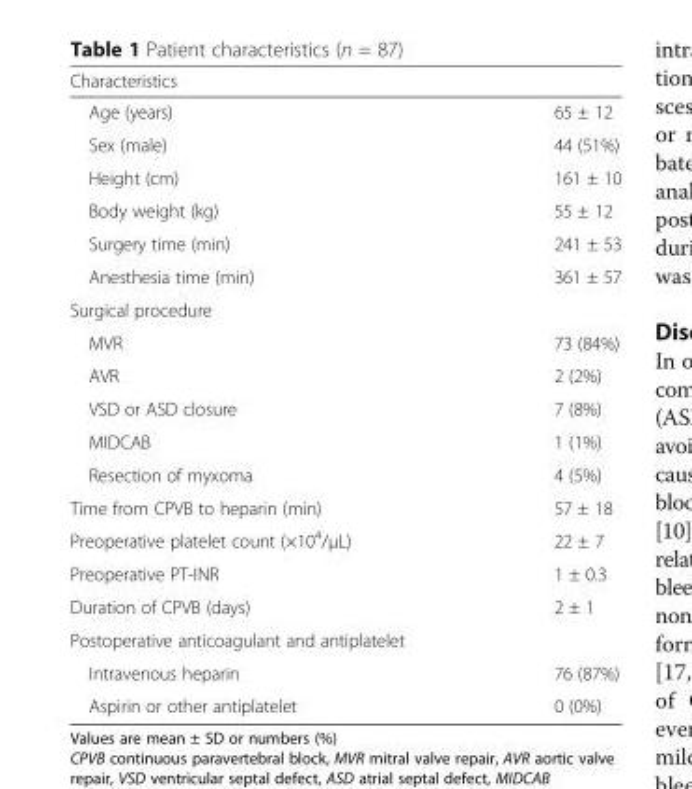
<table><thead><tr><td colspan="2">Characteristics</td></tr><tr><td>Age (years)</td><td>65 ± 12</td></tr></thead><tbody><tr><td>Sex (male)</td><td>44 (51%)</td></tr><tr><td>Height (cm)</td><td>161 ± 10</td></tr><tr><td>Body weight (kg)</td><td>55 ± 12</td></tr><tr><td>Surgery time (min)</td><td>241 ± 53</td></tr><tr><td>Anesthesia time (min)</td><td>361 ± 57</td></tr><tr><td colspan="2">Surgical procedure</td></tr><tr><td>MVR</td><td>73 (84%)</td></tr><tr><td>AVR</td><td>2 (2%)</td></tr><tr><td>VSD or ASD closure</td><td>7 (8%)</td></tr><tr><td>MIDCAB</td><td>1 (1%)</td></tr><tr><td>Resection of myxoma</td><td>4 (5%)</td></tr><tr><td>Time from CPVB to heparin (min)</td><td>57 ± 18</td></tr><tr><td>Preoperative platelet count (×10<sup>4</sup>/μL)</td><td>22 ± 7</td></tr><tr><td>Preoperative PT-INR</td><td>1 ± 0.3</td></tr><tr><td>Duration of CPVB (days)</td><td>2 ± 1</td></tr><tr><td colspan="2">Postoperative anticoagulant and antiplatelet</td></tr><tr><td>Intravenous heparin</td><td>76 (87%)</td></tr><tr><td>Aspirin or other antiplatelet</td><td>0 (0%)</td></tr></tbody></table>